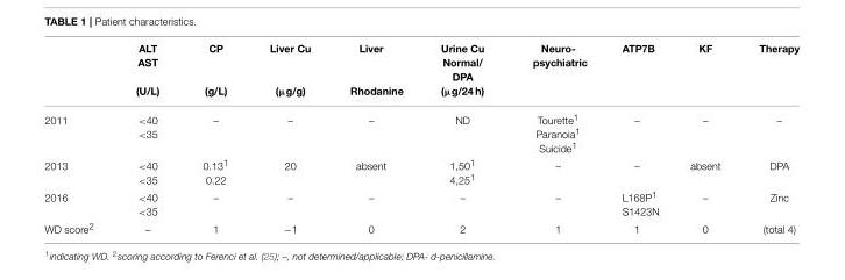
<table><thead><tr><td></td><td>ALT AST (U/L)</td><td>CP (g/L)</td><td>Liver Cu (µg/g)</td><td>Liver Rhodanine</td><td>Urine Cu Normal/ DPA (µg/24 h)</td><td>Neuro- psychiatric</td><td>ATP7B</td><td>KF</td><td>Therapy</td></tr></thead><tbody><tr><td>2011</td><td>&lt;40 &lt;35</td><td>–</td><td>–</td><td>–</td><td>ND</td><td>Tourette<sup>1</sup> Paranoia<sup>1</sup> Suicide<sup>1</sup></td><td>–</td><td>–</td><td>–</td></tr><tr><td>2013</td><td>&lt;40 &lt;35</td><td>0.13<sup>1</sup> 0.22</td><td>20</td><td>absent</td><td>1,50<sup>1</sup> 4,25<sup>1</sup></td><td>–</td><td>–</td><td>absent</td><td>DPA</td></tr><tr><td>2016</td><td>&lt;40 &lt;35</td><td>–</td><td>–</td><td>–</td><td>–</td><td>–</td><td>L168P<sup>1</sup> S1423N</td><td>–</td><td>Zinc</td></tr><tr><td>WD score<sup>2</sup></td><td>–</td><td>1</td><td>−1</td><td>0</td><td>2</td><td>1</td><td>1</td><td>0</td><td>(total 4)</td></tr></tbody></table>